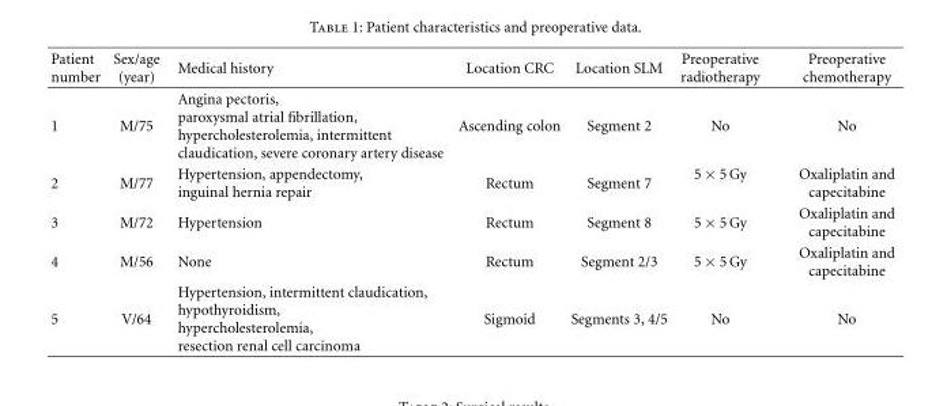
<table><thead><tr><td>Patient number</td><td>Sex/age (year)</td><td>Medical history</td><td>Location CRC</td><td>Location SLM</td><td>Preoperative radiotherapy</td><td>Preoperative chemotherapy</td></tr></thead><tbody><tr><td>1</td><td>M/75</td><td>Angina pectoris, paroxysmal atrial fibrillation, hypercholesterolemia, intermittent claudication, severe coronary artery disease</td><td>Ascending colon</td><td>Segment 2</td><td>No</td><td>No</td></tr><tr><td>2</td><td>M/77</td><td>Hypertension, appendectomy, inguinal hernia repair</td><td>Rectum</td><td>Segment 7</td><td>5 × 5 Gy</td><td>Oxaliplatin and capecitabine</td></tr><tr><td>3</td><td>M/72</td><td>Hypertension</td><td>Rectum</td><td>Segment 8</td><td>5 × 5 Gy</td><td>Oxaliplatin and capecitabine</td></tr><tr><td>4</td><td>M/56</td><td>None</td><td>Rectum</td><td>Segment 2/3</td><td>5 × 5 Gy</td><td>Oxaliplatin and capecitabine</td></tr><tr><td>5</td><td>V/64</td><td>Hypertension, intermittent claudication, hypothyroidism, hypercholesterolemia, resection renal cell carcinoma</td><td>Sigmoid</td><td>Segments 3, 4/5</td><td>No</td><td>No</td></tr></tbody></table>